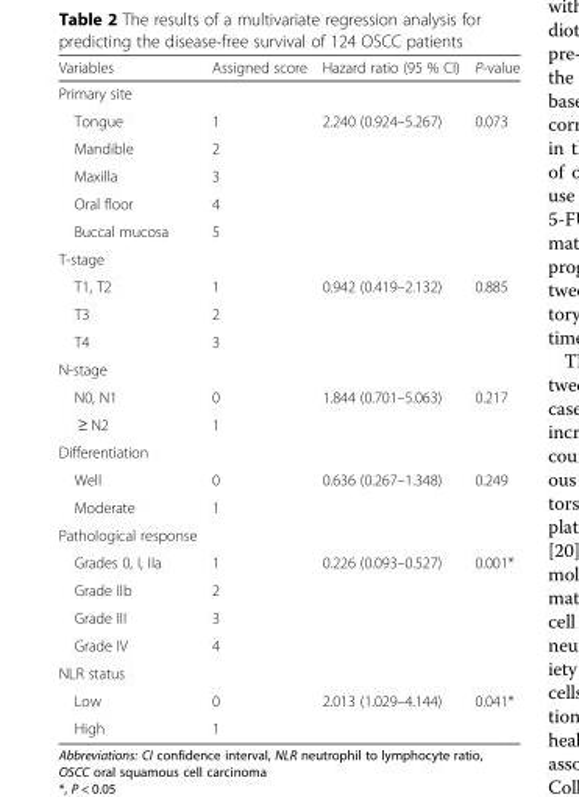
<table><thead><tr><td>Variables</td><td>Assigned score</td><td>Hazard ratio (95 % CI)</td><td>P-value</td></tr></thead><tbody><tr><td colspan="4">Primary site</td></tr><tr><td>Tongue</td><td>1</td><td>2.240 (0.924–5.267)</td><td>0.073</td></tr><tr><td>Mandible</td><td>2</td><td></td><td></td></tr><tr><td>Maxilla</td><td>3</td><td></td><td></td></tr><tr><td>Oral floor</td><td>4</td><td></td><td></td></tr><tr><td>Buccal mucosa</td><td>5</td><td></td><td></td></tr><tr><td colspan="4">T-stage</td></tr><tr><td>T1, T2</td><td>1</td><td>0.942 (0.419–2.132)</td><td>0.885</td></tr><tr><td>T3</td><td>2</td><td></td><td></td></tr><tr><td>T4</td><td>3</td><td></td><td></td></tr><tr><td colspan="4">N-stage</td></tr><tr><td>N0, N1</td><td>0</td><td>1.844 (0.701–5.063)</td><td>0.217</td></tr><tr><td>≥ N2</td><td>1</td><td></td><td></td></tr><tr><td colspan="4">Differentiation</td></tr><tr><td>Well</td><td>0</td><td>0.636 (0.267–1.348)</td><td>0.249</td></tr><tr><td>Moderate</td><td>1</td><td></td><td></td></tr><tr><td colspan="4">Pathological response</td></tr><tr><td>Grades 0, I, IIa</td><td>1</td><td>0.226 (0.093–0.527)</td><td>0.001*</td></tr><tr><td>Grade IIb</td><td>2</td><td></td><td></td></tr><tr><td>Grade III</td><td>3</td><td></td><td></td></tr><tr><td>Grade IV</td><td>4</td><td></td><td></td></tr><tr><td colspan="4">NLR status</td></tr><tr><td>Low</td><td>0</td><td>2.013 (1.029–4.144)</td><td>0.041*</td></tr><tr><td>High</td><td>1</td><td></td><td></td></tr></tbody></table>